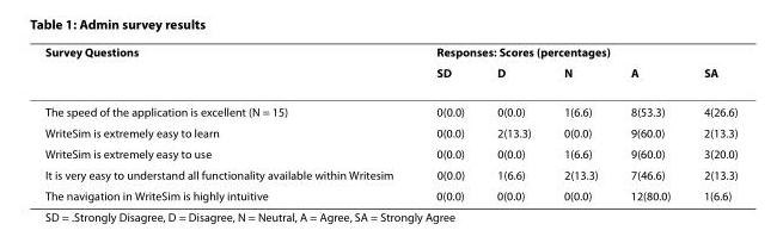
<table><thead><tr><td rowspan="2">Survey Questions</td><td colspan="5">Responses: Scores (percentages)</td></tr><tr><td>SD</td><td>D</td><td>N</td><td>A</td><td>SA</td></tr></thead><tbody><tr><td>The speed of the application is excellent (N = 15)</td><td>0(0.0)</td><td>0(0.0)</td><td>1(6.6)</td><td>8(53.3)</td><td>4(26.6)</td></tr><tr><td>WriteSim is extremely easy to learn</td><td>0(0.0)</td><td>2(13.3)</td><td>0(0.0)</td><td>9(60.0)</td><td>2(13.3)</td></tr><tr><td>WriteSim is extremely easy to use</td><td>0(0.0)</td><td>0(0.0)</td><td>1(6.6)</td><td>9(60.0)</td><td>3(20.0)</td></tr><tr><td>It is very easy to understand all functionality available within Writesim</td><td>0(0.0)</td><td>1(6.6)</td><td>2(13.3)</td><td>7(46.6)</td><td>2(13.3)</td></tr><tr><td>The navigation in WriteSim is highly intuitive</td><td>0(0.0)</td><td>0(0.0)</td><td>0(0.0)</td><td>12(80.0)</td><td>1(6.6)</td></tr></tbody></table>